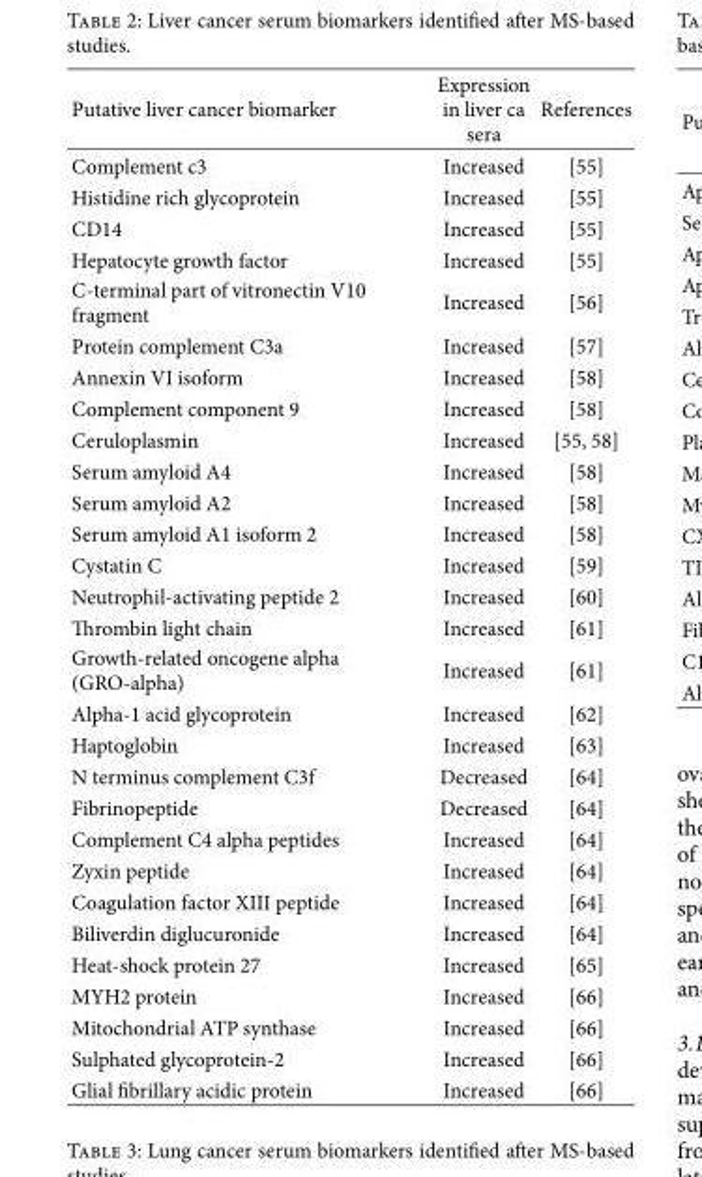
<table><thead><tr><td>Putative liver cancer biomarker</td><td>Expression in liver ca sera</td><td>References</td></tr></thead><tbody><tr><td>Complement c3</td><td>Increased</td><td>[55]</td></tr><tr><td>Histidine rich glycoprotein</td><td>Increased</td><td>[55]</td></tr><tr><td>CD14</td><td>Increased</td><td>[55]</td></tr><tr><td>Hepatocyte growth factor</td><td>Increased</td><td>[55]</td></tr><tr><td>C-terminal part of vitronectin V10 fragment</td><td>Increased</td><td>[56]</td></tr><tr><td>Protein complement C3a</td><td>Increased</td><td>[57]</td></tr><tr><td>Annexin VI isoform</td><td>Increased</td><td>[58]</td></tr><tr><td>Complement component 9</td><td>Increased</td><td>[58]</td></tr><tr><td>Ceruloplasmin</td><td>Increased</td><td>[55, 58]</td></tr><tr><td>Serum amyloid A4</td><td>Increased</td><td>[58]</td></tr><tr><td>Serum amyloid A2</td><td>Increased</td><td>[58]</td></tr><tr><td>Serum amyloid A1 isoform 2</td><td>Increased</td><td>[58]</td></tr><tr><td>Cystatin C</td><td>Increased</td><td>[59]</td></tr><tr><td>Neutrophil-activating peptide 2</td><td>Increased</td><td>[60]</td></tr><tr><td>rombin light chain</td><td>Increased</td><td>[61]</td></tr><tr><td>Growth-related oncogene alpha (GRO-alpha)</td><td>Increased</td><td>[61]</td></tr><tr><td>Alpha-1 acid glycoprotein</td><td>Increased</td><td>[62]</td></tr><tr><td>Haptoglobin</td><td>Increased</td><td>[63]</td></tr><tr><td>N terminus complement C3f</td><td>Decreased</td><td>[64]</td></tr><tr><td>Fibrinopeptide</td><td>Decreased</td><td>[64]</td></tr><tr><td>Complement C4 alpha peptides</td><td>Increased</td><td>[64]</td></tr><tr><td>Zyxin peptide</td><td>Increased</td><td>[64]</td></tr><tr><td>Coagulation factor XIII peptide</td><td>Increased</td><td>[64]</td></tr><tr><td>Biliverdin diglucuronide</td><td>Increased</td><td>[64]</td></tr><tr><td>Heat-shock protein 27</td><td>Increased</td><td>[65]</td></tr><tr><td>MYH2 protein</td><td>Increased</td><td>[66]</td></tr><tr><td>Mitochondrial ATP synthase</td><td>Increased</td><td>[66]</td></tr><tr><td>Sulphated glycoprotein-2</td><td>Increased</td><td>[66]</td></tr><tr><td>Glial �brillary acidic protein</td><td>Increased</td><td>[66]</td></tr></tbody></table>